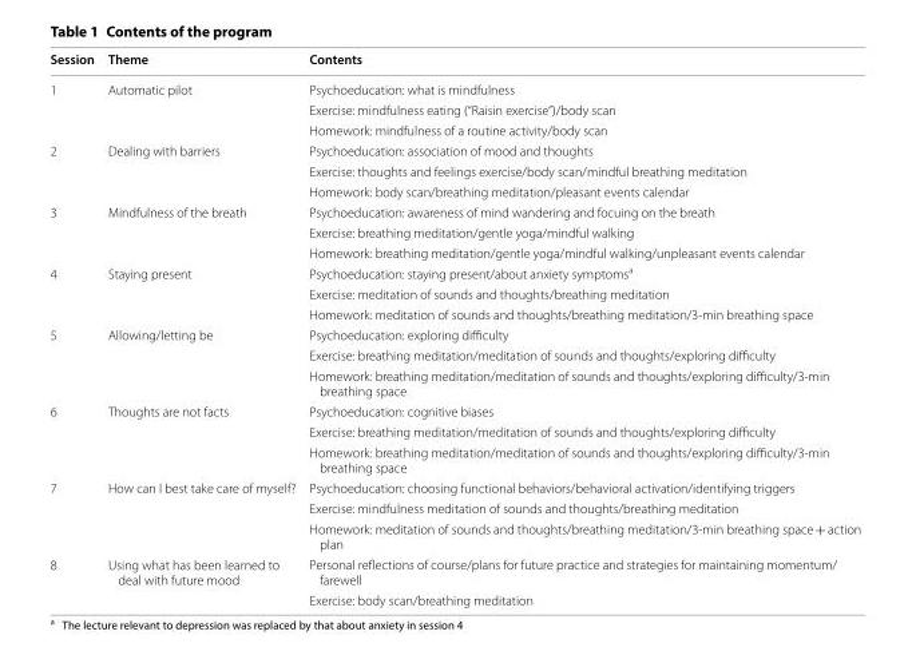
<table><thead><tr><td>Session</td><td>Theme</td><td>Contents</td></tr></thead><tbody><tr><td rowspan="3">1</td><td rowspan="3">Automatic pilot</td><td>Psychoeducation: what is mindfulness</td></tr><tr><td>Exercise: mindfulness eating (“Raisin exercise”)/body scan</td></tr><tr><td>Homework: mindfulness of a routine activity/body scan</td></tr><tr><td rowspan="3">2</td><td rowspan="3">Dealing with barriers</td><td>Psychoeducation: association of mood and thoughts</td></tr><tr><td>Exercise: thoughts and feelings exercise/body scan/mindful breathing meditation</td></tr><tr><td>Homework: body scan/breathing meditation/pleasant events calendar</td></tr><tr><td rowspan="3">3</td><td rowspan="3">Mindfulness of the breath</td><td>Psychoeducation: awareness of mind wandering and focuing on the breath</td></tr><tr><td>Exercise: breathing meditation/gentle yoga/mindful walking</td></tr><tr><td>Homework: breathing meditation/gentle yoga/mindful walking/unpleasant events calendar</td></tr><tr><td rowspan="3">4</td><td rowspan="3">Staying present</td><td>Psychoeducation: staying present/about anxiety symptoms<sup>a</sup></td></tr><tr><td>Exercise: meditation of sounds and thoughts/breathing meditation</td></tr><tr><td>Homework: meditation of sounds and thoughts/breathing meditation/3-min breathing space</td></tr><tr><td rowspan="3">5</td><td rowspan="3">Allowing/letting be</td><td>Psychoeducation: exploring difficulty</td></tr><tr><td>Exercise: breathing meditation/meditation of sounds and thoughts/exploring difficulty</td></tr><tr><td>Homework: breathing meditation/meditation of sounds and thoughts/exploring difficulty/3-min breathing space</td></tr><tr><td rowspan="3">6</td><td rowspan="3">Thoughts are not facts</td><td>Psychoeducation: cognitive biases</td></tr><tr><td>Exercise: breathing meditation/meditation of sounds and thoughts/exploring difficulty</td></tr><tr><td>Homework: breathing meditation/meditation of sounds and thoughts/exploring difficulty/3-min breathing space</td></tr><tr><td rowspan="3">7</td><td rowspan="3">How can I best take care of myself?</td><td>Psychoeducation: choosing functional behaviors/behavioral activation/identifying triggers</td></tr><tr><td>Exercise: mindfulness meditation of sounds and thoughts/breathing meditation</td></tr><tr><td>Homework: meditation of sounds and thoughts/breathing meditation/3-min breathing space + action plan</td></tr><tr><td rowspan="2">8</td><td rowspan="2">Using what has been learned to deal with future mood</td><td>Personal reflections of course/plans for future practice and strategies for maintaining momentum/ farewell</td></tr><tr><td>Exercise: body scan/breathing meditation</td></tr></tbody></table>